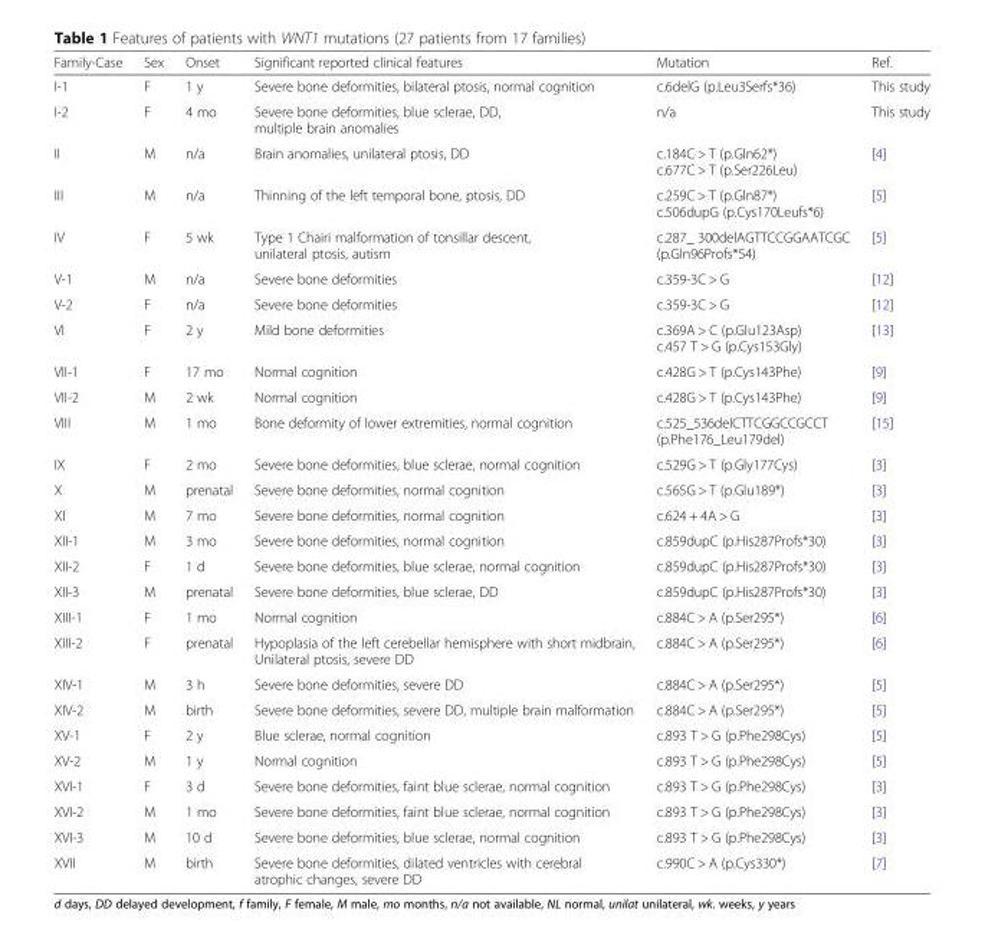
<table><thead><tr><td>Family-Case</td><td>Sex</td><td>Onset</td><td>Significant reported clinical features</td><td>Mutation</td><td>Ref.</td></tr></thead><tbody><tr><td>I-1</td><td>F</td><td>1 y</td><td>Severe bone deformities, bilateral ptosis, normal cognition</td><td>c.6delG (p.Leu3Serfs*36)</td><td>This study</td></tr><tr><td>I-2</td><td>F</td><td>4 mo</td><td>Severe bone deformities, blue sclerae, DD, multiple brain anomalies</td><td>n/a</td><td>This study</td></tr><tr><td>II</td><td>M</td><td>n/a</td><td>Brain anomalies, unilateral ptosis, DD</td><td>c.184C &gt; T (p.Gln62*) c.677C &gt; T (p.Ser226Leu)</td><td>[4]</td></tr><tr><td>III</td><td>M</td><td>n/a</td><td>Thinning of the left temporal bone, ptosis, DD</td><td>c.259C &gt; T (p.Gln87*) c.506dupG (p.Cys170Leufs*6)</td><td>[5]</td></tr><tr><td>IV</td><td>F</td><td>5 wk</td><td>Type 1 Chairi malformation of tonsillar descent, unilateral ptosis, autism</td><td>c.287_ 300delAGTTCCGGAATCGC (p.Gln96Profs*54)</td><td>[5]</td></tr><tr><td>V-1</td><td>M</td><td>n/a</td><td>Severe bone deformities</td><td>c.359-3C &gt; G</td><td>[12]</td></tr><tr><td>V-2</td><td>F</td><td>n/a</td><td>Severe bone deformities</td><td>c.359-3C &gt; G</td><td>[12]</td></tr><tr><td>VI</td><td>F</td><td>2 y</td><td>Mild bone deformities</td><td>c.369A &gt; C (p.Glu123Asp) c.457 T &gt; G (p.Cys153Gly)</td><td>[13]</td></tr><tr><td>VII-1</td><td>F</td><td>17 mo</td><td>Normal cognition</td><td>c.428G &gt; T (p.Cys143Phe)</td><td>[9]</td></tr><tr><td>VII-2</td><td>M</td><td>2 wk</td><td>Normal cognition</td><td>c.428G &gt; T (p.Cys143Phe)</td><td>[9]</td></tr><tr><td>VIII</td><td>M</td><td>1 mo</td><td>Bone deformity of lower extremities, normal cognition</td><td>c.525_536delCTTCGGCCGCCT (p.Phe176_Leu179del)</td><td>[15]</td></tr><tr><td>IX</td><td>F</td><td>2 mo</td><td>Severe bone deformities, blue sclerae, normal cognition</td><td>c.529G &gt; T (p.Gly177Cys)</td><td>[3]</td></tr><tr><td>X</td><td>M</td><td>prenatal</td><td>Severe bone deformities, normal cognition</td><td>c.565G &gt; T (p.Glu189*)</td><td>[3]</td></tr><tr><td>XI</td><td>M</td><td>7 mo</td><td>Severe bone deformities, normal cognition</td><td>c.624 + 4A &gt; G</td><td>[3]</td></tr><tr><td>XII-1</td><td>M</td><td>3 mo</td><td>Severe bone deformities, normal cognition</td><td>c.859dupC (p.His287Profs*30)</td><td>[3]</td></tr><tr><td>XII-2</td><td>F</td><td>1 d</td><td>Severe bone deformities, blue sclerae, normal cognition</td><td>c.859dupC (p.His287Profs*30)</td><td>[3]</td></tr><tr><td>XII-3</td><td>M</td><td>prenatal</td><td>Severe bone deformities, blue sclerae, DD</td><td>c.859dupC (p.His287Profs*30)</td><td>[3]</td></tr><tr><td>XIII-1</td><td>F</td><td>1 mo</td><td>Normal cognition</td><td>c.884C &gt; A (p.Ser295*)</td><td>[6]</td></tr><tr><td>XIII-2</td><td>F</td><td>prenatal</td><td>Hypoplasia of the left cerebellar hemisphere with short midbrain, Unilateral ptosis, severe DD</td><td>c.884C &gt; A (p.Ser295*)</td><td>[6]</td></tr><tr><td>XIV-1</td><td>M</td><td>3 h</td><td>Severe bone deformities, severe DD</td><td>c.884C &gt; A (p.Ser295*)</td><td>[5]</td></tr><tr><td>XIV-2</td><td>M</td><td>birth</td><td>Severe bone deformities, severe DD, multiple brain malformation</td><td>c.884C &gt; A (p.Ser295*)</td><td>[5]</td></tr><tr><td>XV-1</td><td>F</td><td>2 y</td><td>Blue sclerae, normal cognition</td><td>c.893 T &gt; G (p.Phe298Cys)</td><td>[5]</td></tr><tr><td>XV-2</td><td>M</td><td>1 y</td><td>Normal cognition</td><td>c.893 T &gt; G (p.Phe298Cys)</td><td>[5]</td></tr><tr><td>XVI-1</td><td>F</td><td>3 d</td><td>Severe bone deformities, faint blue sclerae, normal cognition</td><td>c.893 T &gt; G (p.Phe298Cys)</td><td>[3]</td></tr><tr><td>XVI-2</td><td>M</td><td>1 mo</td><td>Severe bone deformities, faint blue sclerae, normal cognition</td><td>c.893 T &gt; G (p.Phe298Cys)</td><td>[3]</td></tr><tr><td>XVI-3</td><td>M</td><td>10 d</td><td>Severe bone deformities, blue sclerae, normal cognition</td><td>c.893 T &gt; G (p.Phe298Cys)</td><td>[3]</td></tr><tr><td>XVII</td><td>M</td><td>birth</td><td>Severe bone deformities, dilated ventricles with cerebral atrophic changes, severe DD</td><td>c.990C &gt; A (p.Cys330*)</td><td>[7]</td></tr></tbody></table>